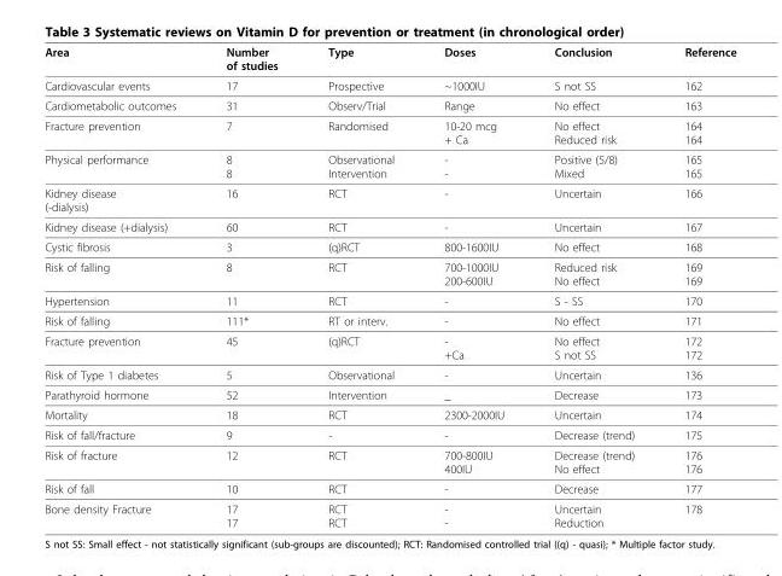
<table><thead><tr><td>Area</td><td>Number of studies</td><td>Type</td><td>Doses</td><td>Conclusion</td><td>Reference</td></tr></thead><tbody><tr><td>Cardiovascular events</td><td>17</td><td>Prospective</td><td>~1000IU</td><td>S not SS</td><td>162</td></tr><tr><td>Cardiometabolic outcomes</td><td>31</td><td>Observ/Trial</td><td>Range</td><td>No effect</td><td>163</td></tr><tr><td>Fracture prevention</td><td>7</td><td>Randomised</td><td>10-20 mcg + Ca</td><td>No effect Reduced risk</td><td>164 164</td></tr><tr><td>Physical performance</td><td>8 8</td><td>Observational Intervention</td><td>- -</td><td>Positive (5/8) Mixed</td><td>165 165</td></tr><tr><td>Kidney disease (-dialysis)</td><td>16</td><td>RCT</td><td>-</td><td>Uncertain</td><td>166</td></tr><tr><td>Kidney disease (+dialysis)</td><td>60</td><td>RCT</td><td>-</td><td>Uncertain</td><td>167</td></tr><tr><td>Cystic fibrosis</td><td>3</td><td>(q)RCT</td><td>800-1600IU</td><td>No effect</td><td>168</td></tr><tr><td>Risk of falling</td><td>8</td><td>RCT</td><td>700-1000IU 200-600IU</td><td>Reduced risk No effect</td><td>169 169</td></tr><tr><td>Hypertension</td><td>11</td><td>RCT</td><td>-</td><td>S - SS</td><td>170</td></tr><tr><td>Risk of falling</td><td>111*</td><td>RT or interv.</td><td>-</td><td>No effect</td><td>171</td></tr><tr><td>Fracture prevention</td><td>45</td><td>(q)RCT</td><td>- +Ca</td><td>No effect S not SS</td><td>172 172</td></tr><tr><td>Risk of Type 1 diabetes</td><td>5</td><td>Observational</td><td>-</td><td>Uncertain</td><td>136</td></tr><tr><td>Parathyroid hormone</td><td>52</td><td>Intervention</td><td>_</td><td>Decrease</td><td>173</td></tr><tr><td>Mortality</td><td>18</td><td>RCT</td><td>2300-2000IU</td><td>Uncertain</td><td>174</td></tr><tr><td>Risk of fall/fracture</td><td>9</td><td>-</td><td>-</td><td>Decrease (trend)</td><td>175</td></tr><tr><td>Risk of fracture</td><td>12</td><td>RCT</td><td>700-800IU 400IU</td><td>Decrease (trend) No effect</td><td>176 176</td></tr><tr><td>Risk of fall</td><td>10</td><td>RCT</td><td>-</td><td>Decrease</td><td>177</td></tr><tr><td>Bone density Fracture</td><td>17 17</td><td>RCT RCT</td><td>- -</td><td>Uncertain Reduction</td><td>178</td></tr></tbody></table>